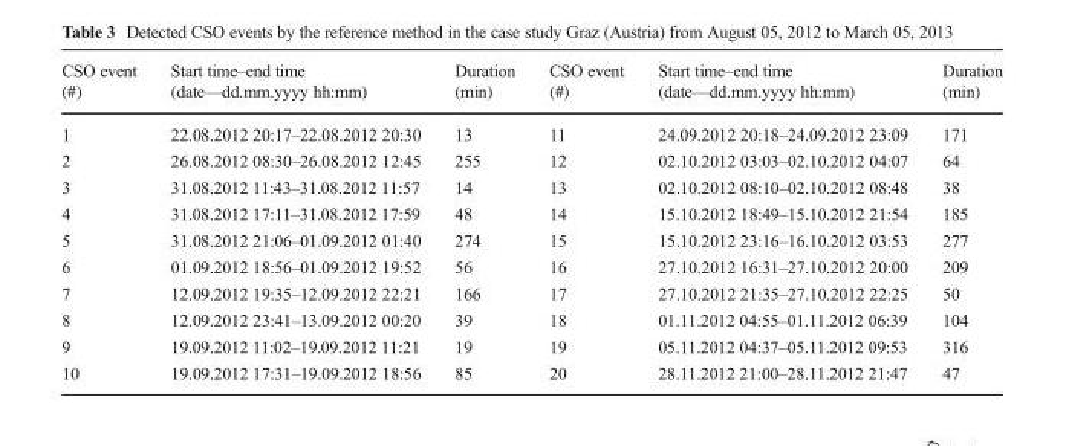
<table><thead><tr><td rowspan="2">CSO event (#)</td><td rowspan="2">Start time–end time (date—dd.mm.yyyy hh:mm)</td><td rowspan="2">Duration (min)</td><td rowspan="2">CSO event (#)</td><td rowspan="2">Start time–end time (date—dd.mm.yyyy hh:mm)</td><td rowspan="2">Duration (min)</td></tr><tr></tr></thead><tbody><tr><td>1</td><td>22.08.2012 20:17–22.08.2012 20:30</td><td>13</td><td>11</td><td>24.09.2012 20:18–24.09.2012 23:09</td><td>171</td></tr><tr><td>2</td><td>26.08.2012 08:30–26.08.2012 12:45</td><td>255</td><td>12</td><td>02.10.2012 03:03–02.10.2012 04:07</td><td>64</td></tr><tr><td>3</td><td>31.08.2012 11:43–31.08.2012 11:57</td><td>14</td><td>13</td><td>02.10.2012 08:10–02.10.2012 08:48</td><td>38</td></tr><tr><td>4</td><td>31.08.2012 17:11–31.08.2012 17:59</td><td>48</td><td>14</td><td>15.10.2012 18:49–15.10.2012 21:54</td><td>185</td></tr><tr><td>5</td><td>31.08.2012 21:06–01.09.2012 01:40</td><td>274</td><td>15</td><td>15.10.2012 23:16–16.10.2012 03:53</td><td>277</td></tr><tr><td>6</td><td>01.09.2012 18:56–01.09.2012 19:52</td><td>56</td><td>16</td><td>27.10.2012 16:31–27.10.2012 20:00</td><td>209</td></tr><tr><td>7</td><td>12.09.2012 19:35–12.09.2012 22:21</td><td>166</td><td>17</td><td>27.10.2012 21:35–27.10.2012 22:25</td><td>50</td></tr><tr><td>8</td><td>12.09.2012 23:41–13.09.2012 00:20</td><td>39</td><td>18</td><td>01.11.2012 04:55–01.11.2012 06:39</td><td>104</td></tr><tr><td>9</td><td>19.09.2012 11:02–19.09.2012 11:21</td><td>19</td><td>19</td><td>05.11.2012 04:37–05.11.2012 09:53</td><td>316</td></tr><tr><td>10</td><td>19.09.2012 17:31–19.09.2012 18:56</td><td>85</td><td>20</td><td>28.11.2012 21:00–28.11.2012 21:47</td><td>47</td></tr></tbody></table>